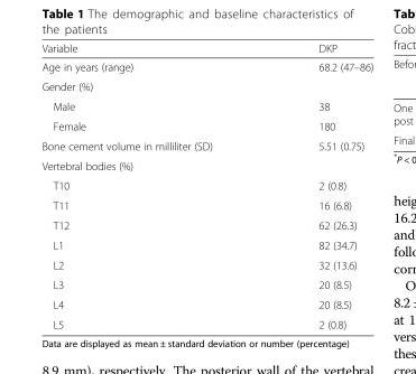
<table><thead><tr><td>Variable</td><td>DKP</td></tr></thead><tbody><tr><td>Age in years (range)</td><td>68.2 (47–86)</td></tr><tr><td colspan="2">Gender (%)</td></tr><tr><td>Male</td><td>38</td></tr><tr><td>Female</td><td>180</td></tr><tr><td>Bone cement volume in milliliter (SD)</td><td>5.51 (0.75)</td></tr><tr><td colspan="2">Vertebral bodies (%)</td></tr><tr><td>T10</td><td>2 (0.8)</td></tr><tr><td>T11</td><td>16 (6.8)</td></tr><tr><td>T12</td><td>62 (26.3)</td></tr><tr><td>L1</td><td>82 (34.7)</td></tr><tr><td>L2</td><td>32 (13.6)</td></tr><tr><td>L3</td><td>20 (8.5)</td></tr><tr><td>L4</td><td>20 (8.5)</td></tr><tr><td>L5</td><td>2 (0.8)</td></tr></tbody></table>